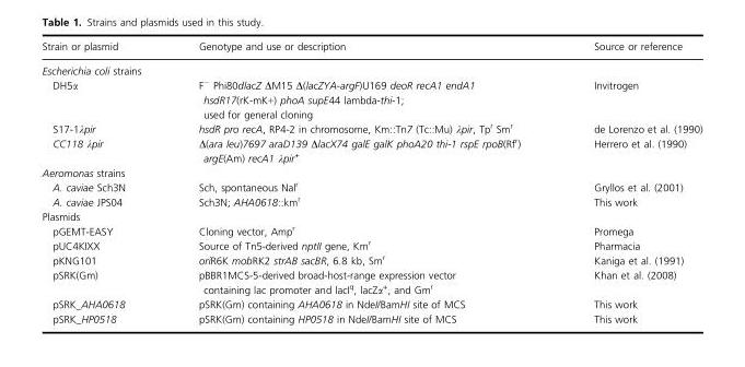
<table><thead><tr><td>Strain or plasmid</td><td>Genotype and use or description</td><td>Source or reference</td></tr></thead><tbody><tr><td colspan="3">Escherichia coli strains</td></tr><tr><td>DH5α</td><td>F<sup>−</sup> Phi80dlacZ ΔM15 Δ(lacZYA-argF)U169 deoR recA1 endA1 hsdR17(rK-mK+) phoA supE44 lambda-thi-1; used for general cloning</td><td>Invitrogen</td></tr><tr><td>S17-1λpir</td><td>hsdR pro recA, RP4-2 in chromosome, Km::Tn7 (Tc::Mu) λpir, Tp<sup>r</sup> Sm<sup>r</sup></td><td>de Lorenzo et al. (1990)</td></tr><tr><td>CC118 λpir</td><td>Δ(ara leu)7697 araD139 ΔlacX74 galE galK phoA20 thi-1 rspE rpoB(Rf<sup>r</sup>) argE(Am) recA1 λpir<sup>+</sup></td><td>Herrero et al. (1990)</td></tr><tr><td colspan="3">Aeromonas strains</td></tr><tr><td>A. caviae Sch3N</td><td>Sch, spontaneous Nal<sup>r</sup></td><td>Gryllos et al. (2001)</td></tr><tr><td>A. caviae JPS04</td><td>Sch3N; AHA0618::km<sup>r</sup></td><td>This work</td></tr><tr><td colspan="3">Plasmids</td></tr><tr><td>pGEMT-EASY</td><td>Cloning vector, Amp<sup>r</sup></td><td>Promega</td></tr><tr><td>pUC4KIXX</td><td>Source of Tn5-derived nptII gene, Km<sup>r</sup></td><td>Pharmacia</td></tr><tr><td>pKNG101</td><td>oriR6K mobRK2 strAB sacBR, 6.8 kb, Sm<sup>r</sup></td><td>Kaniga et al. (1991)</td></tr><tr><td>pSRK(Gm)</td><td>pBBR1MCS-5-derived broad-host-range expression vector containing lac promoter and lacI<sup>q</sup>, lacZα<sup>+</sup>, and Gm<sup>r</sup></td><td>Khan et al. (2008)</td></tr><tr><td>pSRK_AHA0618</td><td>pSRK(Gm) containing AHA0618 in NdeI/BamHI site of MCS</td><td>This work</td></tr><tr><td>pSRK_HP0518</td><td>pSRK(Gm) containing HP0518 in NdeI/BamHI site of MCS</td><td>This work</td></tr></tbody></table>